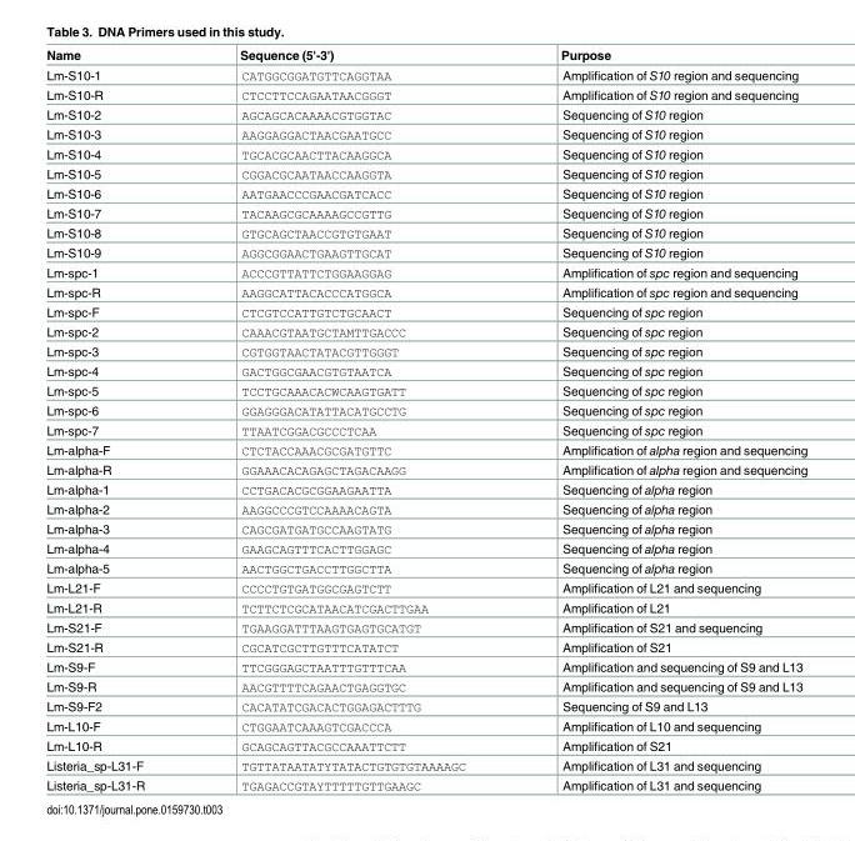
<table><thead><tr><td>Name</td><td>Sequence (5&#x27;-3&#x27;)</td><td>Purpose</td></tr></thead><tbody><tr><td>Lm-S10-1</td><td>CATGGCGGATGTTCAGGTAA</td><td>Amplification of S10 region and sequencing</td></tr><tr><td>Lm-S10-R</td><td>CTCCTTCCAGAATAACGGGT</td><td>Amplification of S10 region and sequencing</td></tr><tr><td>Lm-S10-2</td><td>AGCAGCACAAAACGTGGTAC</td><td>Sequencing of S10 region</td></tr><tr><td>Lm-S10-3</td><td>AAGGAGGACTAACGAATGCC</td><td>Sequencing of S10 region</td></tr><tr><td>Lm-S10-4</td><td>TGCACGCAACTTACAAGGCA</td><td>Sequencing of S10 region</td></tr><tr><td>Lm-S10-5</td><td>CGGACGCAATAACCAAGGTA</td><td>Sequencing of S10 region</td></tr><tr><td>Lm-S10-6</td><td>AATGAACCCGAACGATCACC</td><td>Sequencing of S10 region</td></tr><tr><td>Lm-S10-7</td><td>TACAAGCGCAAAAGCCGTTG</td><td>Sequencing of S10 region</td></tr><tr><td>Lm-S10-8</td><td>GTGCAGCTAACCGTGTGAAT</td><td>Sequencing of S10 region</td></tr><tr><td>Lm-S10-9</td><td>AGGCGGAACTGAAGTTGCAT</td><td>Sequencing of S10 region</td></tr><tr><td>Lm-spc-1</td><td>ACCCGTTATTCTGGAAGGAG</td><td>Amplification of spc region and sequencing</td></tr><tr><td>Lm-spc-R</td><td>AAGGCATTACACCCATGGCA</td><td>Amplification of spc region and sequencing</td></tr><tr><td>Lm-spc-F</td><td>CTCGTCCATTGTCTGCAACT</td><td>Sequencing of spc region</td></tr><tr><td>Lm-spc-2</td><td>CAAACGTAATGCTAMTTGACCC</td><td>Sequencing of spc region</td></tr><tr><td>Lm-spc-3</td><td>CGTGGTAACTATACGTTGGGT</td><td>Sequencing of spc region</td></tr><tr><td>Lm-spc-4</td><td>GACTGGCGAACGTGTAATCA</td><td>Sequencing of spc region</td></tr><tr><td>Lm-spc-5</td><td>TCCTGCAAACACWCAAGTGATT</td><td>Sequencing of spc region</td></tr><tr><td>Lm-spc-6</td><td>GGAGGGACATATTACATGCCTG</td><td>Sequencing of spc region</td></tr><tr><td>Lm-spc-7</td><td>TTAATCGGACGCCCTCAA</td><td>Sequencing of spc region</td></tr><tr><td>Lm-alpha-F</td><td>CTCTACCAAACGCGATGTTC</td><td>Amplification of alpha region and sequencing</td></tr><tr><td>Lm-alpha-R</td><td>GGAAACACAGAGCTAGACAAGG</td><td>Amplification of alpha region and sequencing</td></tr><tr><td>Lm-alpha-1</td><td>CCTGACACGCGGAAGAATTA</td><td>Sequencing of alpha region</td></tr><tr><td>Lm-alpha-2</td><td>AAGGCCCGTCCAAAACAGTA</td><td>Sequencing of alpha region</td></tr><tr><td>Lm-alpha-3</td><td>CAGCGATGATGCCAAGTATG</td><td>Sequencing of alpha region</td></tr><tr><td>Lm-alpha-4</td><td>GAAGCAGTTTCACTTGGAGC</td><td>Sequencing of alpha region</td></tr><tr><td>Lm-alpha-5</td><td>AACTGGCTGACCTTGGCTTA</td><td>Sequencing of alpha region</td></tr><tr><td>Lm-L21-F</td><td>CCCCTGTGATGGCGAGTCTT</td><td>Amplification of L21 and sequencing</td></tr><tr><td>Lm-L21-R</td><td>TCTTCTCGCATAACATCGACTTGAA</td><td>Amplification of L21</td></tr><tr><td>Lm-S21-F</td><td>TGAAGGATTTAAGTGAGTGCATGT</td><td>Amplification of S21 and sequencing</td></tr><tr><td>Lm-S21-R</td><td>CGCATCGCTTGTTTCATATCT</td><td>Amplification of S21</td></tr><tr><td>Lm-S9-F</td><td>TTCGGGAGCTAATTTGTTTCAA</td><td>Amplification and sequencing of S9 and L13</td></tr><tr><td>Lm-S9-R</td><td>AACGTTTTCAGAACTGAGGTGC</td><td>Amplification and sequencing of S9 and L13</td></tr><tr><td>Lm-S9-F2</td><td>CACATATCGACACTGGAGACTTTG</td><td>Sequencing of S9 and L13</td></tr><tr><td>Lm-L10-F</td><td>CTGGAATCAAAGTCGACCCA</td><td>Amplification of L10 and sequencing</td></tr><tr><td>Lm-L10-R</td><td>GCAGCAGTTACGCCAAATTCTT</td><td>Amplification of S21</td></tr><tr><td>Listeria_sp-L31-F</td><td>TGTTATAATATYTATACTGTGTGTAAAAGC</td><td>Amplification of L31 and sequencing</td></tr><tr><td>Listeria_sp-L31-R</td><td>TGAGACCGTAYTTTTTGTTGAAGC</td><td>Amplification of L31 and sequencing</td></tr></tbody></table>